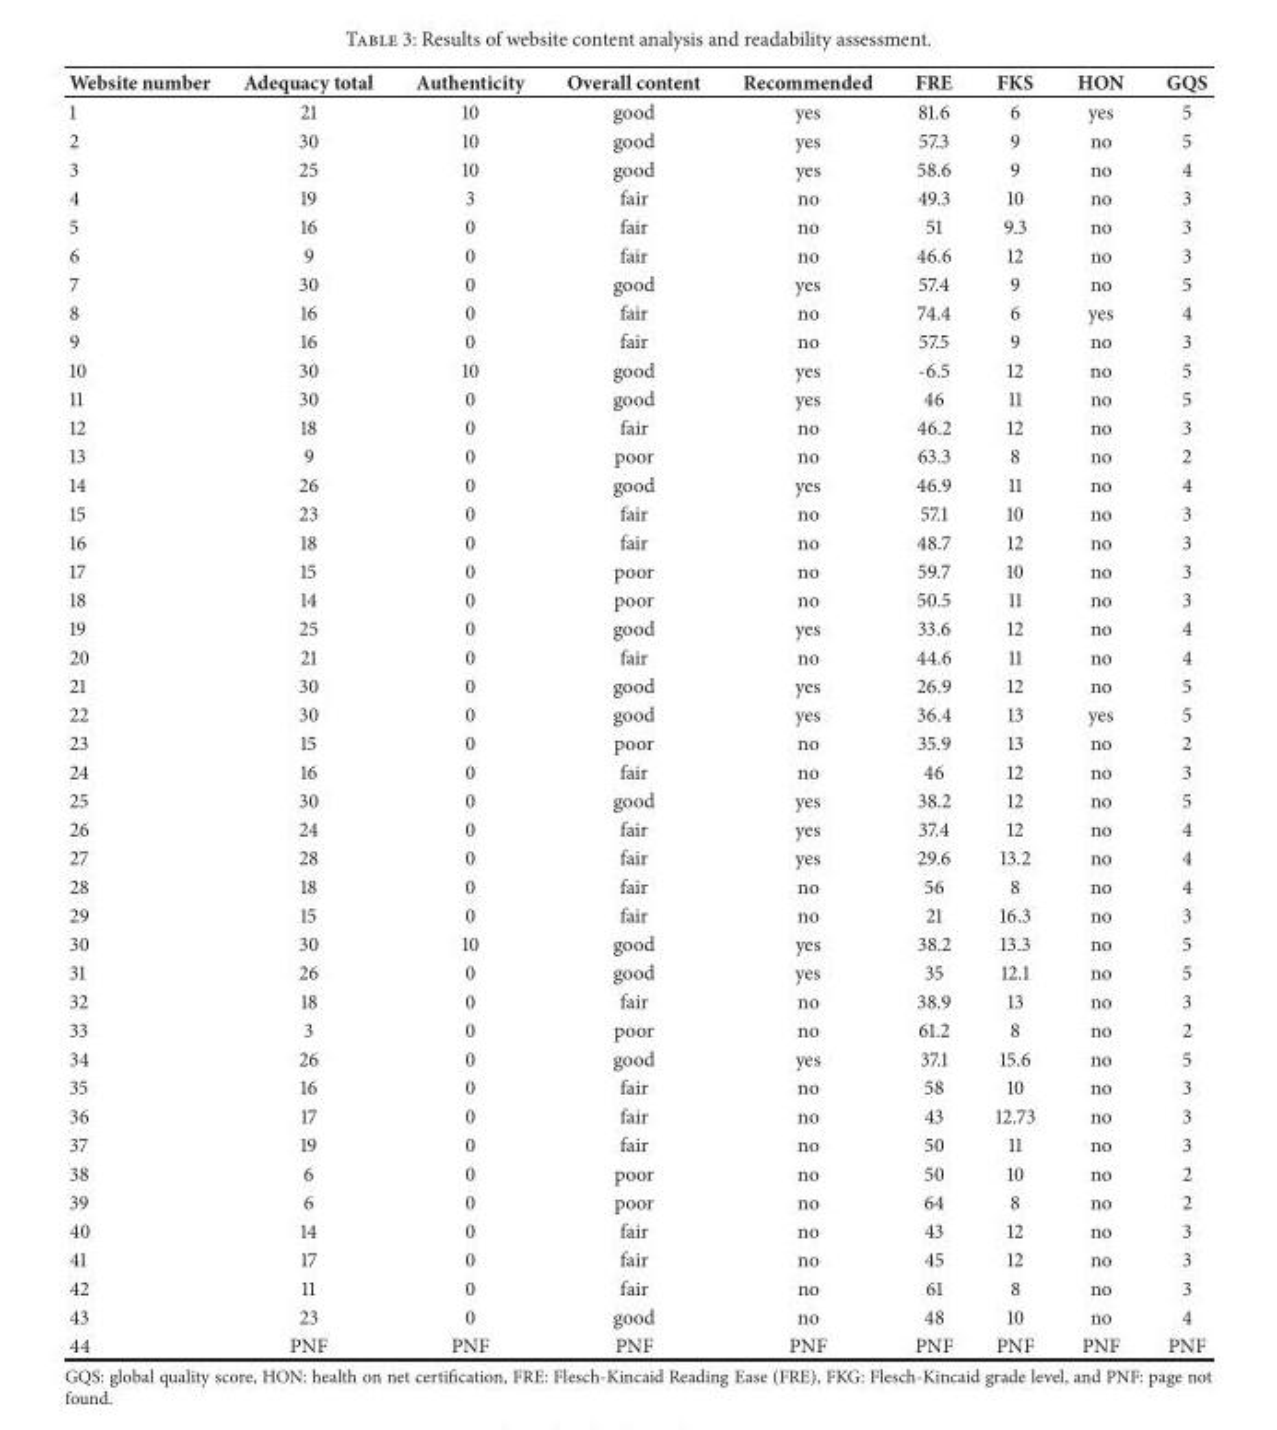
<table><thead><tr><td>Website number</td><td>Adequacy total</td><td>Authenticity</td><td>Overall content</td><td>Recommended</td><td>FRE</td><td>FKS</td><td>HON</td><td>GQS</td></tr></thead><tbody><tr><td>1</td><td>21</td><td>10</td><td>good</td><td>yes</td><td>81.6</td><td>6</td><td>yes</td><td>5</td></tr><tr><td>2</td><td>30</td><td>10</td><td>good</td><td>yes</td><td>57.3</td><td>9</td><td>no</td><td>5</td></tr><tr><td>3</td><td>25</td><td>10</td><td>good</td><td>yes</td><td>58.6</td><td>9</td><td>no</td><td>4</td></tr><tr><td>4</td><td>19</td><td>3</td><td>fair</td><td>no</td><td>49.3</td><td>10</td><td>no</td><td>3</td></tr><tr><td>5</td><td>16</td><td>0</td><td>fair</td><td>no</td><td>51</td><td>9.3</td><td>no</td><td>3</td></tr><tr><td>6</td><td>9</td><td>0</td><td>fair</td><td>no</td><td>46.6</td><td>12</td><td>no</td><td>3</td></tr><tr><td>7</td><td>30</td><td>0</td><td>good</td><td>yes</td><td>57.4</td><td>9</td><td>no</td><td>5</td></tr><tr><td>8</td><td>16</td><td>0</td><td>fair</td><td>no</td><td>74.4</td><td>6</td><td>yes</td><td>4</td></tr><tr><td>9</td><td>16</td><td>0</td><td>fair</td><td>no</td><td>57.5</td><td>9</td><td>no</td><td>3</td></tr><tr><td>10</td><td>30</td><td>10</td><td>good</td><td>yes</td><td>-6.5</td><td>12</td><td>no</td><td>5</td></tr><tr><td>11</td><td>30</td><td>0</td><td>good</td><td>yes</td><td>46</td><td>11</td><td>no</td><td>5</td></tr><tr><td>12</td><td>18</td><td>0</td><td>fair</td><td>no</td><td>46.2</td><td>12</td><td>no</td><td>3</td></tr><tr><td>13</td><td>9</td><td>0</td><td>poor</td><td>no</td><td>63.3</td><td>8</td><td>no</td><td>2</td></tr><tr><td>14</td><td>26</td><td>0</td><td>good</td><td>yes</td><td>46.9</td><td>11</td><td>no</td><td>4</td></tr><tr><td>15</td><td>23</td><td>0</td><td>fair</td><td>no</td><td>57.1</td><td>10</td><td>no</td><td>3</td></tr><tr><td>16</td><td>18</td><td>0</td><td>fair</td><td>no</td><td>48.7</td><td>12</td><td>no</td><td>3</td></tr><tr><td>17</td><td>15</td><td>0</td><td>poor</td><td>no</td><td>59.7</td><td>10</td><td>no</td><td>3</td></tr><tr><td>18</td><td>14</td><td>0</td><td>poor</td><td>no</td><td>50.5</td><td>11</td><td>no</td><td>3</td></tr><tr><td>19</td><td>25</td><td>0</td><td>good</td><td>yes</td><td>33.6</td><td>12</td><td>no</td><td>4</td></tr><tr><td>20</td><td>21</td><td>0</td><td>fair</td><td>no</td><td>44.6</td><td>11</td><td>no</td><td>4</td></tr><tr><td>21</td><td>30</td><td>0</td><td>good</td><td>yes</td><td>26.9</td><td>12</td><td>no</td><td>5</td></tr><tr><td>22</td><td>30</td><td>0</td><td>good</td><td>yes</td><td>36.4</td><td>13</td><td>yes</td><td>5</td></tr><tr><td>23</td><td>15</td><td>0</td><td>poor</td><td>no</td><td>35.9</td><td>13</td><td>no</td><td>2</td></tr><tr><td>24</td><td>16</td><td>0</td><td>fair</td><td>no</td><td>46</td><td>12</td><td>no</td><td>3</td></tr><tr><td>25</td><td>30</td><td>0</td><td>good</td><td>yes</td><td>38.2</td><td>12</td><td>no</td><td>5</td></tr><tr><td>26</td><td>24</td><td>0</td><td>fair</td><td>yes</td><td>37.4</td><td>12</td><td>no</td><td>4</td></tr><tr><td>27</td><td>28</td><td>0</td><td>fair</td><td>yes</td><td>29.6</td><td>13.2</td><td>no</td><td>4</td></tr><tr><td>28</td><td>18</td><td>0</td><td>fair</td><td>no</td><td>56</td><td>8</td><td>no</td><td>4</td></tr><tr><td>29</td><td>15</td><td>0</td><td>fair</td><td>no</td><td>21</td><td>16.3</td><td>no</td><td>3</td></tr><tr><td>30</td><td>30</td><td>10</td><td>good</td><td>yes</td><td>38.2</td><td>13.3</td><td>no</td><td>5</td></tr><tr><td>31</td><td>26</td><td>0</td><td>good</td><td>yes</td><td>35</td><td>12.1</td><td>no</td><td>5</td></tr><tr><td>32</td><td>18</td><td>0</td><td>fair</td><td>no</td><td>38.9</td><td>13</td><td>no</td><td>3</td></tr><tr><td>33</td><td>3</td><td>0</td><td>poor</td><td>no</td><td>61.2</td><td>8</td><td>no</td><td>2</td></tr><tr><td>34</td><td>26</td><td>0</td><td>good</td><td>yes</td><td>37.1</td><td>15.6</td><td>no</td><td>5</td></tr><tr><td>35</td><td>16</td><td>0</td><td>fair</td><td>no</td><td>58</td><td>10</td><td>no</td><td>3</td></tr><tr><td>36</td><td>17</td><td>0</td><td>fair</td><td>no</td><td>43</td><td>12.73</td><td>no</td><td>3</td></tr><tr><td>37</td><td>19</td><td>0</td><td>fair</td><td>no</td><td>50</td><td>11</td><td>no</td><td>3</td></tr><tr><td>38</td><td>6</td><td>0</td><td>poor</td><td>no</td><td>50</td><td>10</td><td>no</td><td>2</td></tr><tr><td>39</td><td>6</td><td>0</td><td>poor</td><td>no</td><td>64</td><td>8</td><td>no</td><td>2</td></tr><tr><td>40</td><td>14</td><td>0</td><td>fair</td><td>no</td><td>43</td><td>12</td><td>no</td><td>3</td></tr><tr><td>41</td><td>17</td><td>0</td><td>fair</td><td>no</td><td>45</td><td>12</td><td>no</td><td>3</td></tr><tr><td>42</td><td>11</td><td>0</td><td>fair</td><td>no</td><td>61</td><td>8</td><td>no</td><td>3</td></tr><tr><td>43</td><td>23</td><td>0</td><td>good</td><td>no</td><td>48</td><td>10</td><td>no</td><td>4</td></tr><tr><td>44</td><td>PNF</td><td>PNF</td><td>PNF</td><td>PNF</td><td>PNF</td><td>PNF</td><td>PNF</td><td>PNF</td></tr></tbody></table>